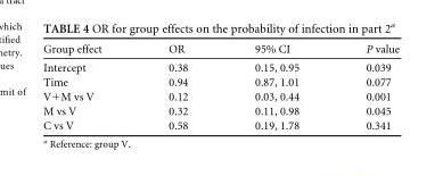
<table><thead><tr><td>Group effect</td><td>OR</td><td>95% CI</td><td>P value</td></tr></thead><tbody><tr><td>Intercept</td><td>0.38</td><td>0.15, 0.95</td><td>0.039</td></tr><tr><td>Time</td><td>0.94</td><td>0.87, 1.01</td><td>0.077</td></tr><tr><td>V+M vs V</td><td>0.12</td><td>0.03, 0.44</td><td>0.001</td></tr><tr><td>M vs V</td><td>0.32</td><td>0.11, 0.98</td><td>0.045</td></tr><tr><td>C vs V</td><td>0.58</td><td>0.19, 1.78</td><td>0.341</td></tr></tbody></table>